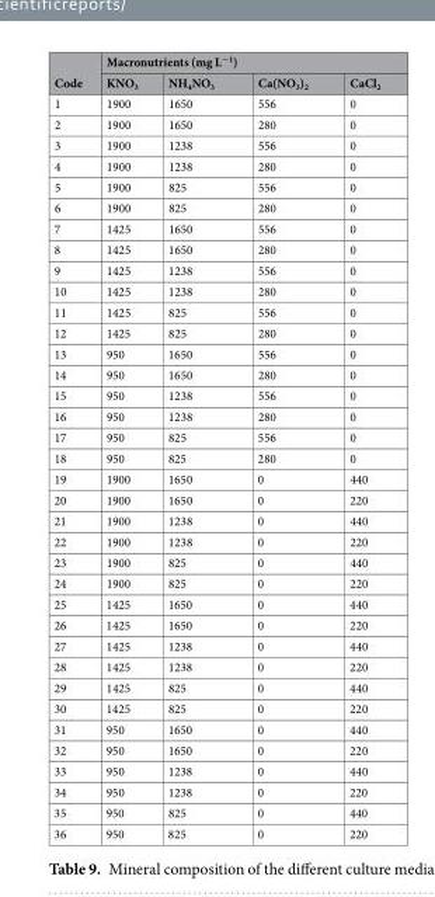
<table><thead><tr><td rowspan="2">Code</td><td colspan="4">Macronutrients (mg L<sup>−1</sup>)</td></tr><tr><td>KNO<sub>3</sub></td><td>NH<sub>4</sub>NO<sub>3</sub></td><td>Ca(NO<sub>3</sub>)<sub>2</sub></td><td>CaCl<sub>2</sub></td></tr></thead><tbody><tr><td>1</td><td>1900</td><td>1650</td><td>556</td><td>0</td></tr><tr><td>2</td><td>1900</td><td>1650</td><td>280</td><td>0</td></tr><tr><td>3</td><td>1900</td><td>1238</td><td>556</td><td>0</td></tr><tr><td>4</td><td>1900</td><td>1238</td><td>280</td><td>0</td></tr><tr><td>5</td><td>1900</td><td>825</td><td>556</td><td>0</td></tr><tr><td>6</td><td>1900</td><td>825</td><td>280</td><td>0</td></tr><tr><td>7</td><td>1425</td><td>1650</td><td>556</td><td>0</td></tr><tr><td>8</td><td>1425</td><td>1650</td><td>280</td><td>0</td></tr><tr><td>9</td><td>1425</td><td>1238</td><td>556</td><td>0</td></tr><tr><td>10</td><td>1425</td><td>1238</td><td>280</td><td>0</td></tr><tr><td>11</td><td>1425</td><td>825</td><td>556</td><td>0</td></tr><tr><td>12</td><td>1425</td><td>825</td><td>280</td><td>0</td></tr><tr><td>13</td><td>950</td><td>1650</td><td>556</td><td>0</td></tr><tr><td>14</td><td>950</td><td>1650</td><td>280</td><td>0</td></tr><tr><td>15</td><td>950</td><td>1238</td><td>556</td><td>0</td></tr><tr><td>16</td><td>950</td><td>1238</td><td>280</td><td>0</td></tr><tr><td>17</td><td>950</td><td>825</td><td>556</td><td>0</td></tr><tr><td>18</td><td>950</td><td>825</td><td>280</td><td>0</td></tr><tr><td>19</td><td>1900</td><td>1650</td><td>0</td><td>440</td></tr><tr><td>20</td><td>1900</td><td>1650</td><td>0</td><td>220</td></tr><tr><td>21</td><td>1900</td><td>1238</td><td>0</td><td>440</td></tr><tr><td>22</td><td>1900</td><td>1238</td><td>0</td><td>220</td></tr><tr><td>23</td><td>1900</td><td>825</td><td>0</td><td>440</td></tr><tr><td>24</td><td>1900</td><td>825</td><td>0</td><td>220</td></tr><tr><td>25</td><td>1425</td><td>1650</td><td>0</td><td>440</td></tr><tr><td>26</td><td>1425</td><td>1650</td><td>0</td><td>220</td></tr><tr><td>27</td><td>1425</td><td>1238</td><td>0</td><td>440</td></tr><tr><td>28</td><td>1425</td><td>1238</td><td>0</td><td>220</td></tr><tr><td>29</td><td>1425</td><td>825</td><td>0</td><td>440</td></tr><tr><td>30</td><td>1425</td><td>825</td><td>0</td><td>220</td></tr><tr><td>31</td><td>950</td><td>1650</td><td>0</td><td>440</td></tr><tr><td>32</td><td>950</td><td>1650</td><td>0</td><td>220</td></tr><tr><td>33</td><td>950</td><td>1238</td><td>0</td><td>440</td></tr><tr><td>34</td><td>950</td><td>1238</td><td>0</td><td>220</td></tr><tr><td>35</td><td>950</td><td>825</td><td>0</td><td>440</td></tr><tr><td>36</td><td>950</td><td>825</td><td>0</td><td>220</td></tr></tbody></table>